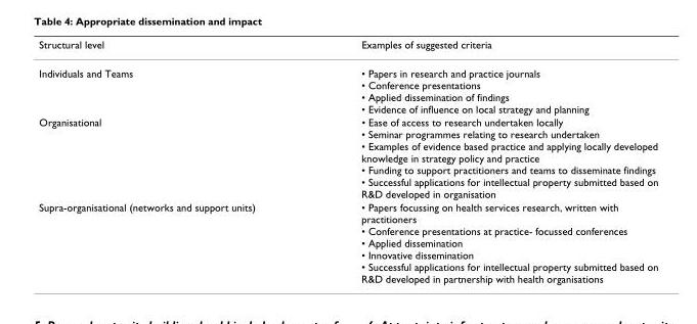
<table><thead><tr><td>Structural level</td><td>Examples of suggested criteria</td></tr></thead><tbody><tr><td>Individuals and Teams</td><td>• Papers in research and practice journals • Conference presentations • Applied dissemination of findings • Evidence of influence on local strategy and planning</td></tr><tr><td>Organisational</td><td>• Ease of access to research undertaken locally • Seminar programmes relating to research undertaken • Examples of evidence based practice and applying locally developed knowledge in strategy policy and practice • Funding to support practitioners and teams to disseminate findings • Successful applications for intellectual property submitted based on R&amp;D developed in organisation</td></tr><tr><td>Supra-organisational (networks and support units)</td><td>• Papers focussing on health services research, written with practitioners • Conference presentations at practice- focussed conferences • Applied dissemination • Innovative dissemination • Successful applications for intellectual property submitted based on R&amp;D developed in partnership with health organisations</td></tr></tbody></table>